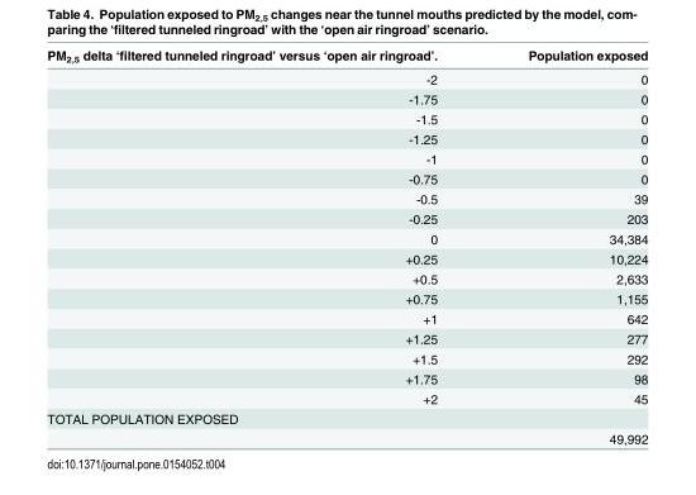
<table><thead><tr><td>PM<sub>2,5</sub> delta ‘filtered tunneled ringroad’ versus ‘open air ringroad’.</td><td>Population exposed</td></tr></thead><tbody><tr><td>-2</td><td>0</td></tr><tr><td>-1.75</td><td>0</td></tr><tr><td>-1.5</td><td>0</td></tr><tr><td>-1.25</td><td>0</td></tr><tr><td>-1</td><td>0</td></tr><tr><td>-0.75</td><td>0</td></tr><tr><td>-0.5</td><td>39</td></tr><tr><td>-0.25</td><td>203</td></tr><tr><td>0</td><td>34,384</td></tr><tr><td>+0.25</td><td>10,224</td></tr><tr><td>+0.5</td><td>2,633</td></tr><tr><td>+0.75</td><td>1,155</td></tr><tr><td>+1</td><td>642</td></tr><tr><td>+1.25</td><td>277</td></tr><tr><td>+1.5</td><td>292</td></tr><tr><td>+1.75</td><td>98</td></tr><tr><td>+2</td><td>45</td></tr><tr><td colspan="2">TOTAL POPULATION EXPOSED</td></tr><tr><td></td><td>49,992</td></tr></tbody></table>